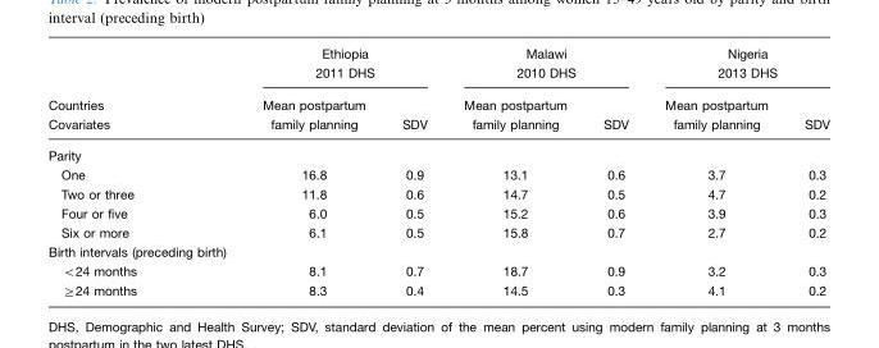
<table><thead><tr><td rowspan="2">Countries Covariates</td><td colspan="2">Ethiopia 2011 DHS</td><td colspan="2">Malawi 2010 DHS</td><td colspan="2">Nigeria 2013 DHS</td></tr><tr><td>Mean postpartum family planning</td><td>SDV</td><td>Mean postpartum family planning</td><td>SDV</td><td>Mean postpartum family planning</td><td>SDV</td></tr></thead><tbody><tr><td colspan="7">Parity</td></tr><tr><td>One</td><td>16.8</td><td>0.9</td><td>13.1</td><td>0.6</td><td>3.7</td><td>0.3</td></tr><tr><td>Two or three</td><td>11.8</td><td>0.6</td><td>14.7</td><td>0.5</td><td>4.7</td><td>0.2</td></tr><tr><td>Four or five</td><td>6.0</td><td>0.5</td><td>15.2</td><td>0.6</td><td>3.9</td><td>0.3</td></tr><tr><td>Six or more</td><td>6.1</td><td>0.5</td><td>15.8</td><td>0.7</td><td>2.7</td><td>0.2</td></tr><tr><td colspan="7">Birth intervals (preceding birth)</td></tr><tr><td>&lt;24 months</td><td>8.1</td><td>0.7</td><td>18.7</td><td>0.9</td><td>3.2</td><td>0.3</td></tr><tr><td>≥24 months</td><td>8.3</td><td>0.4</td><td>14.5</td><td>0.3</td><td>4.1</td><td>0.2</td></tr></tbody></table>